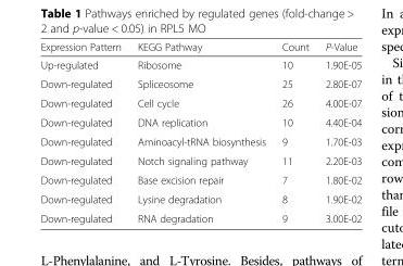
<table><thead><tr><td>Expression Pattern</td><td>KEGG Pathway</td><td>Count</td><td>P-Value</td></tr></thead><tbody><tr><td>Up-regulated</td><td>Ribosome</td><td>10</td><td>1.90E-05</td></tr><tr><td>Down-regulated</td><td>Spliceosome</td><td>25</td><td>2.80E-07</td></tr><tr><td>Down-regulated</td><td>Cell cycle</td><td>26</td><td>4.00E-07</td></tr><tr><td>Down-regulated</td><td>DNA replication</td><td>10</td><td>4.40E-04</td></tr><tr><td>Down-regulated</td><td>Aminoacyl-tRNA biosynthesis</td><td>9</td><td>1.70E-03</td></tr><tr><td>Down-regulated</td><td>Notch signaling pathway</td><td>11</td><td>2.20E-03</td></tr><tr><td>Down-regulated</td><td>Base excision repair</td><td>7</td><td>1.80E-02</td></tr><tr><td>Down-regulated</td><td>Lysine degradation</td><td>8</td><td>1.90E-02</td></tr><tr><td>Down-regulated</td><td>RNA degradation</td><td>9</td><td>3.00E-02</td></tr></tbody></table>